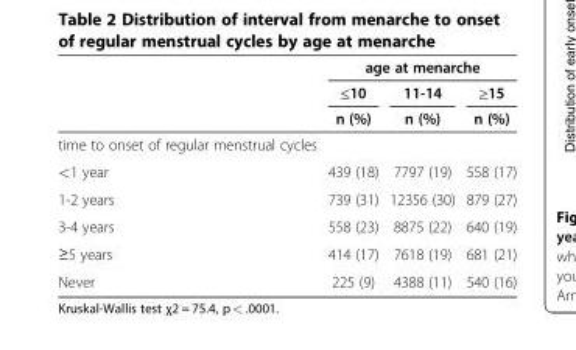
<table><thead><tr><td rowspan="3"></td><td colspan="3">age at menarche</td></tr><tr><td rowspan="2">≤10 n (%)</td><td rowspan="2">11-14 n (%)</td><td rowspan="2">≥15 n (%)</td></tr><tr></tr></thead><tbody><tr><td colspan="4">time to onset of regular menstrual cycles</td></tr><tr><td>&lt;1 year</td><td>439 (18)</td><td>7797 (19)</td><td>558 (17)</td></tr><tr><td>1-2 years</td><td>739 (31)</td><td>12356 (30)</td><td>879 (27)</td></tr><tr><td>3-4 years</td><td>558 (23)</td><td>8875 (22)</td><td>640 (19)</td></tr><tr><td>≥5 years</td><td>414 (17)</td><td>7618 (19)</td><td>681 (21)</td></tr><tr><td>Never</td><td>225 (9)</td><td>4388 (11)</td><td>540 (16)</td></tr></tbody></table>